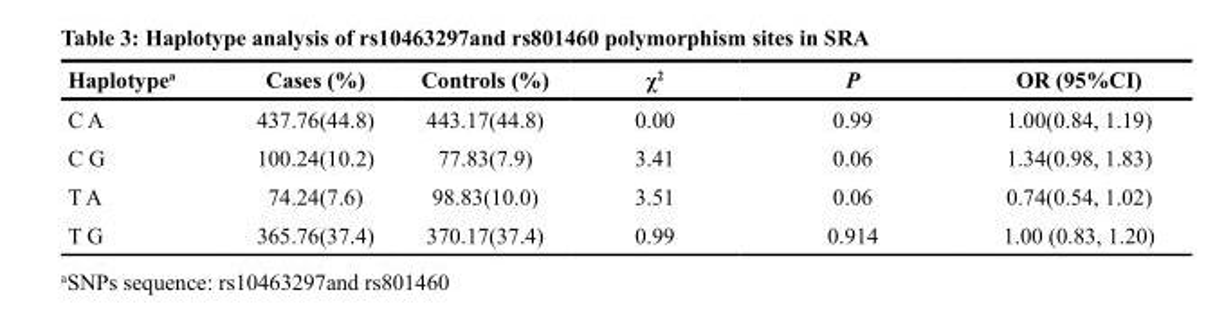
<table><thead><tr><td>Haplotype<sup>a</sup></td><td>Cases (%)</td><td>Controls (%)</td><td>χ<sup>2</sup></td><td>P</td><td>OR (95%CI)</td></tr></thead><tbody><tr><td>C A</td><td>437.76(44.8)</td><td>443.17(44.8)</td><td>0.00</td><td>0.99</td><td>1.00(0.84, 1.19)</td></tr><tr><td>C G</td><td>100.24(10.2)</td><td>77.83(7.9)</td><td>3.41</td><td>0.06</td><td>1.34(0.98, 1.83)</td></tr><tr><td>T A</td><td>74.24(7.6)</td><td>98.83(10.0)</td><td>3.51</td><td>0.06</td><td>0.74(0.54, 1.02)</td></tr><tr><td>T G</td><td>365.76(37.4)</td><td>370.17(37.4)</td><td>0.99</td><td>0.914</td><td>1.00 (0.83, 1.20)</td></tr></tbody></table>